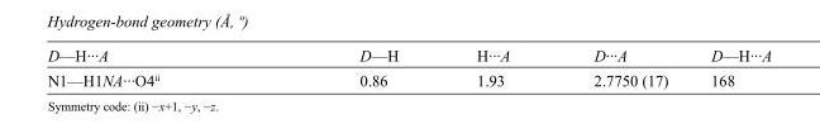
<table><tbody><tr><td>D—H···A</td><td>D—H</td><td>H···A</td><td>D···A</td><td>D—H···A</td></tr><tr><td>N1—H1NA···O4<sup>ii</sup></td><td>0.86</td><td>1.93</td><td>2.7750 (17)</td><td>168</td></tr></tbody></table>